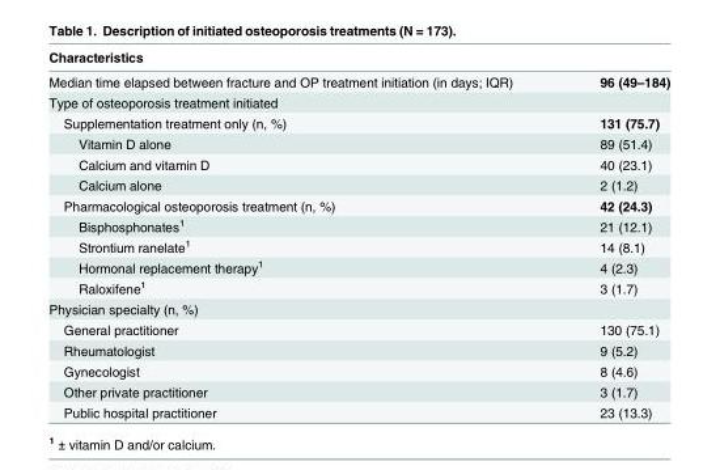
<table><thead><tr><td colspan="2">Characteristics</td></tr><tr><td>Median time elapsed between fracture and OP treatment initiation (in days; IQR)</td><td>96 (49–184)</td></tr></thead><tbody><tr><td colspan="2">Type of osteoporosis treatment initiated</td></tr><tr><td>Supplementation treatment only (n, %)</td><td>131 (75.7)</td></tr><tr><td>Vitamin D alone</td><td>89 (51.4)</td></tr><tr><td>Calcium and vitamin D</td><td>40 (23.1)</td></tr><tr><td>Calcium alone</td><td>2 (1.2)</td></tr><tr><td>Pharmacological osteoporosis treatment (n, %)</td><td>42 (24.3)</td></tr><tr><td>Bisphosphonates<sup>1</sup></td><td>21 (12.1)</td></tr><tr><td>Strontium ranelate<sup>1</sup></td><td>14 (8.1)</td></tr><tr><td>Hormonal replacement therapy<sup>1</sup></td><td>4 (2.3)</td></tr><tr><td>Raloxifene<sup>1</sup></td><td>3 (1.7)</td></tr><tr><td colspan="2">Physician specialty (n, %)</td></tr><tr><td>General practitioner</td><td>130 (75.1)</td></tr><tr><td>Rheumatologist</td><td>9 (5.2)</td></tr><tr><td>Gynecologist</td><td>8 (4.6)</td></tr><tr><td>Other private practitioner</td><td>3 (1.7)</td></tr><tr><td>Public hospital practitioner</td><td>23 (13.3)</td></tr></tbody></table>